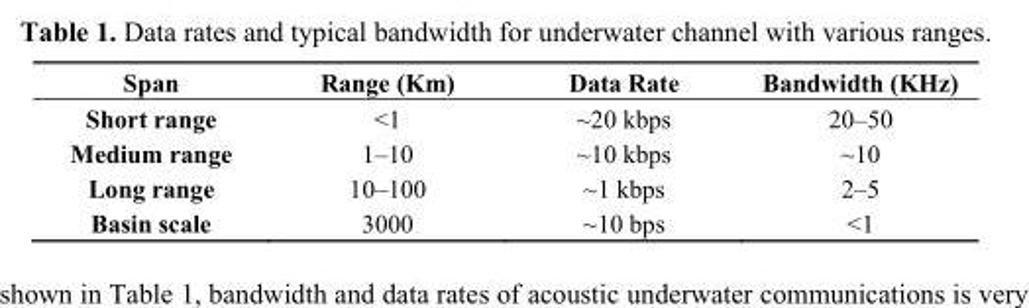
<table><thead><tr><td>Span</td><td>Range (Km)</td><td>Data Rate</td><td>Bandwidth (KHz)</td></tr></thead><tbody><tr><td>Short range</td><td>&lt;1</td><td>~20 kbps</td><td>20–50</td></tr><tr><td>Medium range</td><td>1–10</td><td>~10 kbps</td><td>~10</td></tr><tr><td>Long range</td><td>10–100</td><td>~1 kbps</td><td>2–5</td></tr><tr><td>Basin scale</td><td>3000</td><td>~10 bps</td><td>&lt;1</td></tr></tbody></table>